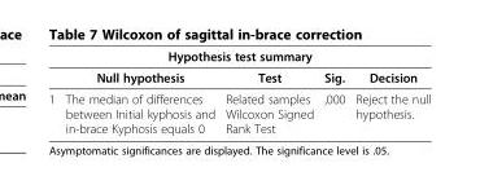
<table><thead><tr><td colspan="5">Hypothesis test summary</td></tr><tr><td></td><td>Null hypothesis</td><td>Test</td><td>Sig.</td><td>Decision</td></tr></thead><tbody><tr><td>1</td><td>The median of differences between Initial kyphosis and in-brace Kyphosis equals 0</td><td>Related samples Wilcoxon Signed Rank Test</td><td>,000</td><td>Reject the null hypothesis.</td></tr></tbody></table>